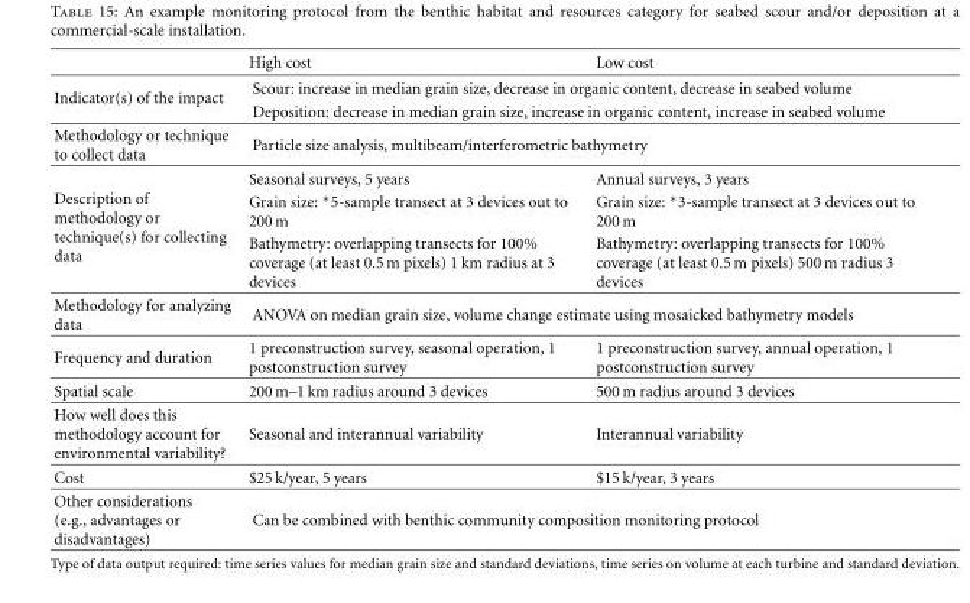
<table><thead><tr><td></td><td>High cost</td><td>Low cost</td></tr></thead><tbody><tr><td rowspan="2">Indicator(s) of the impact</td><td colspan="2">Scour: increase in median grain size, decrease in organic content, decrease in seabed volume</td></tr><tr><td colspan="2">Deposition: decrease in median grain size, increase in organic content, increase in seabed volume</td></tr><tr><td>Methodology or technique to collect data</td><td colspan="2">Particle size analysis, multibeam/interferometric bathymetry</td></tr><tr><td rowspan="3">Description of methodology or technique(s) for collecting data</td><td>Seasonal surveys, 5 years</td><td>Annual surveys, 3 years</td></tr><tr><td>Grain size: ∗5-sample transect at 3 devices out to 200 m</td><td>Grain size: ∗3-sample transect at 3 devices out to 200 m</td></tr><tr><td>Bathymetry: overlapping transects for 100% coverage (at least 0.5 m pixels) 1 km radius at 3 devices</td><td>Bathymetry: overlapping transects for 100% coverage (at least 0.5 m pixels) 500 m radius 3 devices</td></tr><tr><td>Methodology for analyzing data</td><td colspan="2">ANOVA on median grain size, volume change estimate using mosaicked bathymetry models</td></tr><tr><td>Frequency and duration</td><td>1 preconstruction survey, seasonal operation, 1 postconstruction survey</td><td>1 preconstruction survey, annual operation, 1 postconstruction survey</td></tr><tr><td>Spatial scale</td><td>200 m–1 km radius around 3 devices</td><td>500 m radius around 3 devices</td></tr><tr><td>How well does this methodology account for environmental variability?</td><td>Seasonal and interannual variability</td><td>Interannual variability</td></tr><tr><td>Cost</td><td>$25 k/year, 5 years</td><td>$15 k/year, 3 years</td></tr><tr><td>Other considerations (e.g., advantages or disadvantages)</td><td colspan="2">Can be combined with benthic community composition monitoring protocol</td></tr></tbody></table>